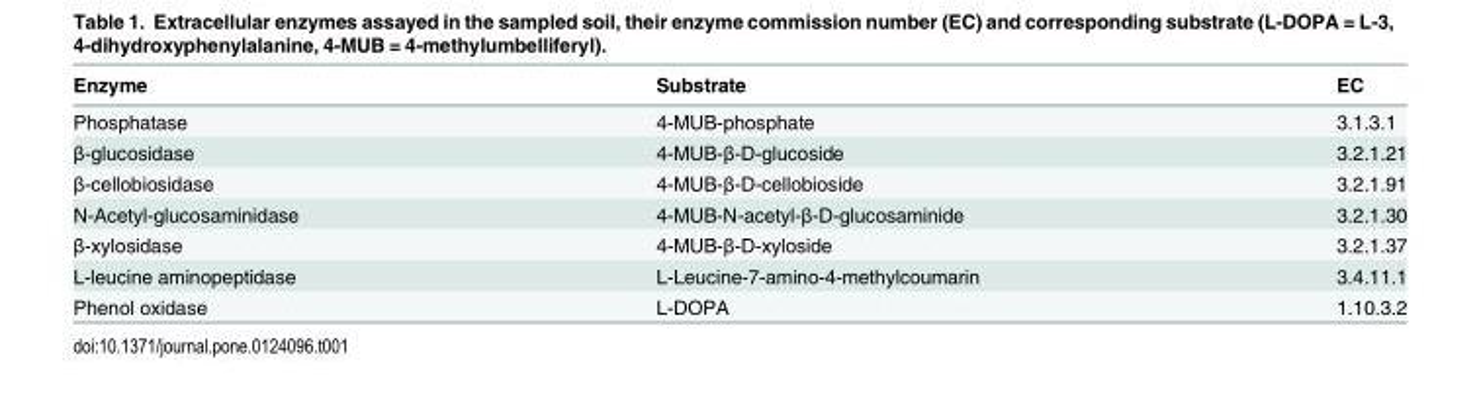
<table><thead><tr><td>Enzyme</td><td>Substrate</td><td>EC</td></tr></thead><tbody><tr><td>Phosphatase</td><td>4-MUB-phosphate</td><td>3.1.3.1</td></tr><tr><td>β-glucosidase</td><td>4-MUB-β-D-glucoside</td><td>3.2.1.21</td></tr><tr><td>β-cellobiosidase</td><td>4-MUB-β-D-cellobioside</td><td>3.2.1.91</td></tr><tr><td>N-Acetyl-glucosaminidase</td><td>4-MUB-N-acetyl-β-D-glucosaminide</td><td>3.2.1.30</td></tr><tr><td>β-xylosidase</td><td>4-MUB-β-D-xyloside</td><td>3.2.1.37</td></tr><tr><td>L-leucine aminopeptidase</td><td>L-Leucine-7-amino-4-methylcoumarin</td><td>3.4.11.1</td></tr><tr><td>Phenol oxidase</td><td>L-DOPA</td><td>1.10.3.2</td></tr></tbody></table>